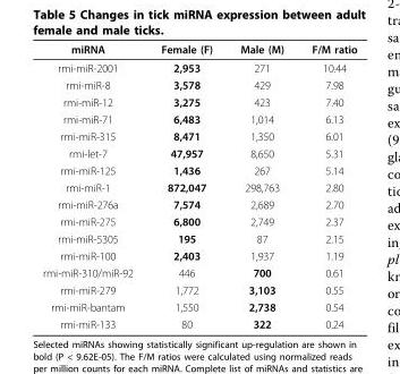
<table><thead><tr><td>miRNA</td><td>Female (F)</td><td>Male (M)</td><td>F/M ratio</td></tr></thead><tbody><tr><td>rmi-miR-2001</td><td>2,953</td><td>271</td><td>10.44</td></tr><tr><td>rmi-miR-8</td><td>3,578</td><td>429</td><td>7.98</td></tr><tr><td>rmi-miR-12</td><td>3,275</td><td>423</td><td>7.40</td></tr><tr><td>rmi-miR-71</td><td>6,483</td><td>1,014</td><td>6.13</td></tr><tr><td>rmi-miR-315</td><td>8,471</td><td>1,350</td><td>6.01</td></tr><tr><td>rmi-let-7</td><td>47,957</td><td>8,650</td><td>5.31</td></tr><tr><td>rmi-miR-125</td><td>1,436</td><td>267</td><td>5.14</td></tr><tr><td>rmi-miR-1</td><td>872,047</td><td>298,763</td><td>2.80</td></tr><tr><td>rmi-miR-276a</td><td>7,574</td><td>2,689</td><td>2.70</td></tr><tr><td>rmi-miR-275</td><td>6,800</td><td>2,749</td><td>2.37</td></tr><tr><td>rmi-miR-5305</td><td>195</td><td>87</td><td>2.15</td></tr><tr><td>rmi-miR-100</td><td>2,403</td><td>1,937</td><td>1.19</td></tr><tr><td>rmi-miR-310/miR-92</td><td>446</td><td>700</td><td>0.61</td></tr><tr><td>rmi-miR-279</td><td>1,772</td><td>3,103</td><td>0.55</td></tr><tr><td>rmi-miR-bantam</td><td>1,550</td><td>2,738</td><td>0.54</td></tr><tr><td>rmi-miR-133</td><td>80</td><td>322</td><td>0.24</td></tr></tbody></table>